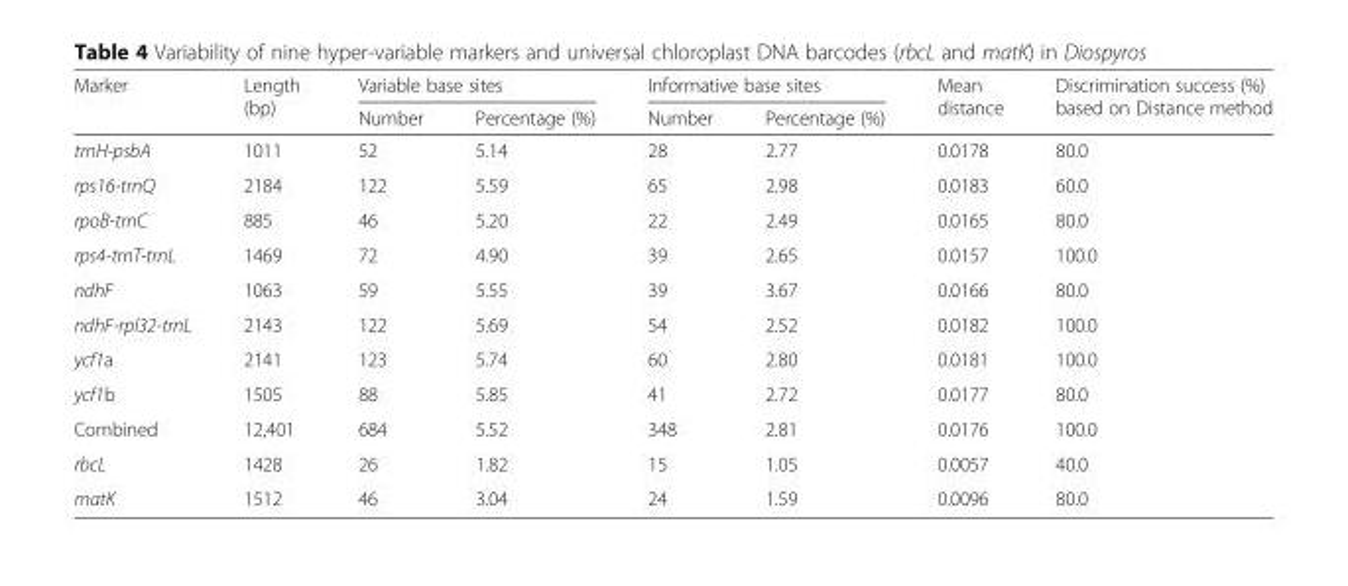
<table><thead><tr><td rowspan="2">Marker</td><td rowspan="2">Length (bp)</td><td colspan="2">Variable base sites</td><td colspan="2">Informative base sites</td><td rowspan="2">Mean distance</td><td rowspan="2">Discrimination success (%) based on Distance method</td></tr><tr><td>Number</td><td>Percentage (%)</td><td>Number</td><td>Percentage (%)</td></tr></thead><tbody><tr><td>trnH-psbA</td><td>1011</td><td>52</td><td>5.14</td><td>28</td><td>2.77</td><td>0.0178</td><td>80.0</td></tr><tr><td>rps16-trnQ</td><td>2184</td><td>122</td><td>5.59</td><td>65</td><td>2.98</td><td>0.0183</td><td>60.0</td></tr><tr><td>rpoB-trnC</td><td>885</td><td>46</td><td>5.20</td><td>22</td><td>2.49</td><td>0.0165</td><td>80.0</td></tr><tr><td>rps4-trnT-trnL</td><td>1469</td><td>72</td><td>4.90</td><td>39</td><td>2.65</td><td>0.0157</td><td>100.0</td></tr><tr><td>ndhF</td><td>1063</td><td>59</td><td>5.55</td><td>39</td><td>3.67</td><td>0.0166</td><td>80.0</td></tr><tr><td>ndhF-rpl32-trnL</td><td>2143</td><td>122</td><td>5.69</td><td>54</td><td>2.52</td><td>0.0182</td><td>100.0</td></tr><tr><td>ycf1a</td><td>2141</td><td>123</td><td>5.74</td><td>60</td><td>2.80</td><td>0.0181</td><td>100.0</td></tr><tr><td>ycf1b</td><td>1505</td><td>88</td><td>5.85</td><td>41</td><td>2.72</td><td>0.0177</td><td>80.0</td></tr><tr><td>Combined</td><td>12,401</td><td>684</td><td>5.52</td><td>348</td><td>2.81</td><td>0.0176</td><td>100.0</td></tr><tr><td>rbcL</td><td>1428</td><td>26</td><td>1.82</td><td>15</td><td>1.05</td><td>0.0057</td><td>40.0</td></tr><tr><td>matK</td><td>1512</td><td>46</td><td>3.04</td><td>24</td><td>1.59</td><td>0.0096</td><td>80.0</td></tr></tbody></table>